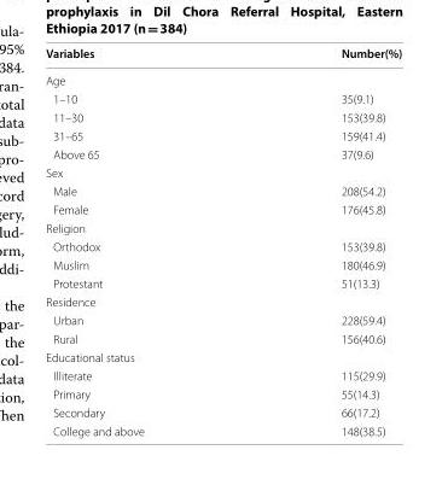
<table><thead><tr><td>Variables</td><td>Number(%)</td></tr></thead><tbody><tr><td colspan="2">Age</td></tr><tr><td>1–10</td><td>35(9.1)</td></tr><tr><td>11–30</td><td>153(39.8)</td></tr><tr><td>31–65</td><td>159(41.4)</td></tr><tr><td>Above 65</td><td>37(9.6)</td></tr><tr><td colspan="2">Sex</td></tr><tr><td>Male</td><td>208(54.2)</td></tr><tr><td>Female</td><td>176(45.8)</td></tr><tr><td colspan="2">Religion</td></tr><tr><td>Orthodox</td><td>153(39.8)</td></tr><tr><td>Muslim</td><td>180(46.9)</td></tr><tr><td>Protestant</td><td>51(13.3)</td></tr><tr><td colspan="2">Residence</td></tr><tr><td>Urban</td><td>228(59.4)</td></tr><tr><td>Rural</td><td>156(40.6)</td></tr><tr><td colspan="2">Educational status</td></tr><tr><td>Illiterate</td><td>115(29.9)</td></tr><tr><td>Primary</td><td>55(14.3)</td></tr><tr><td>Secondary</td><td>66(17.2)</td></tr><tr><td>College and above</td><td>148(38.5)</td></tr></tbody></table>